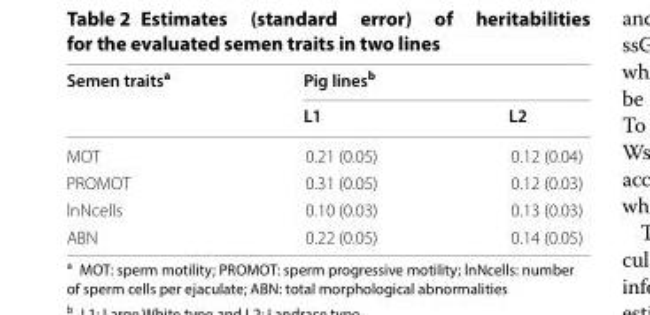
<table><thead><tr><td rowspan="2">Semen traits<sup>a</sup></td><td colspan="2">Pig lines<sup>b</sup></td></tr><tr><td>L1</td><td>L2</td></tr></thead><tbody><tr><td>MOT</td><td>0.21 (0.05)</td><td>0.12 (0.04)</td></tr><tr><td>PROMOT</td><td>0.31 (0.05)</td><td>0.12 (0.03)</td></tr><tr><td>lnNcells</td><td>0.10 (0.03)</td><td>0.13 (0.03)</td></tr><tr><td>ABN</td><td>0.22 (0.05)</td><td>0.14 (0.05)</td></tr></tbody></table>